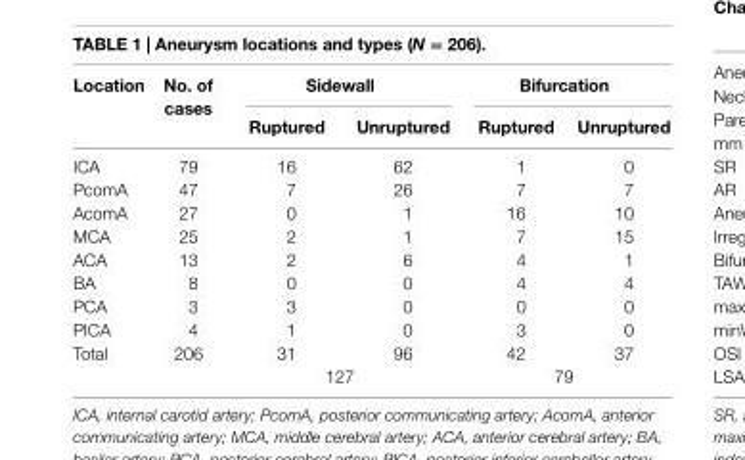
<table><thead><tr><td rowspan="2">location</td><td rowspan="2">no. of cases</td><td colspan="2">sidewall</td><td colspan="2">Bifurcation</td></tr><tr><td>ruptured</td><td>Unruptured</td><td>ruptured</td><td>Unruptured</td></tr></thead><tbody><tr><td>ICA</td><td>79</td><td>16</td><td>62</td><td>1</td><td>0</td></tr><tr><td>PcomA</td><td>47</td><td>7</td><td>26</td><td>7</td><td>7</td></tr><tr><td>AcomA</td><td>27</td><td>0</td><td>1</td><td>16</td><td>10</td></tr><tr><td>MCA</td><td>25</td><td>2</td><td>1</td><td>7</td><td>15</td></tr><tr><td>ACA</td><td>13</td><td>2</td><td>6</td><td>4</td><td>1</td></tr><tr><td>BA</td><td>8</td><td>0</td><td>0</td><td>4</td><td>4</td></tr><tr><td>PCA</td><td>3</td><td>3</td><td>0</td><td>0</td><td>0</td></tr><tr><td>PICA</td><td>4</td><td>1</td><td>0</td><td>3</td><td>0</td></tr><tr><td rowspan="2">Total</td><td>206</td><td>31</td><td>96</td><td>42</td><td>37</td></tr><tr><td></td><td colspan="2">127</td><td colspan="2">79</td></tr></tbody></table>